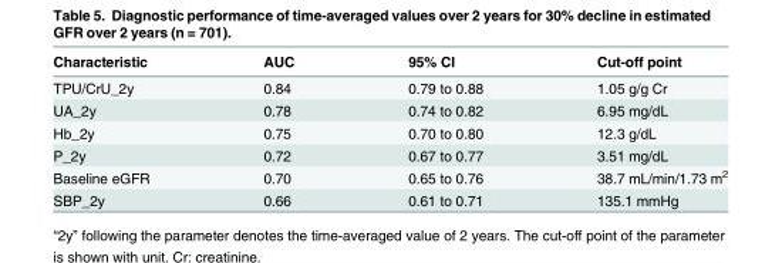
<table><thead><tr><td>Characteristic</td><td>AUC</td><td>95% CI</td><td>Cut-off point</td></tr></thead><tbody><tr><td>TPU/CrU_2y</td><td>0.84</td><td>0.79 to 0.88</td><td>1.05 g/g Cr</td></tr><tr><td>UA_2y</td><td>0.78</td><td>0.74 to 0.82</td><td>6.95 mg/dL</td></tr><tr><td>Hb_2y</td><td>0.75</td><td>0.70 to 0.80</td><td>12.3 g/dL</td></tr><tr><td>P_2y</td><td>0.72</td><td>0.67 to 0.77</td><td>3.51 mg/dL</td></tr><tr><td>Baseline eGFR</td><td>0.70</td><td>0.65 to 0.76</td><td>38.7 mL/min/1.73 m<sup>2</sup></td></tr><tr><td>SBP_2y</td><td>0.66</td><td>0.61 to 0.71</td><td>135.1 mmHg</td></tr></tbody></table>